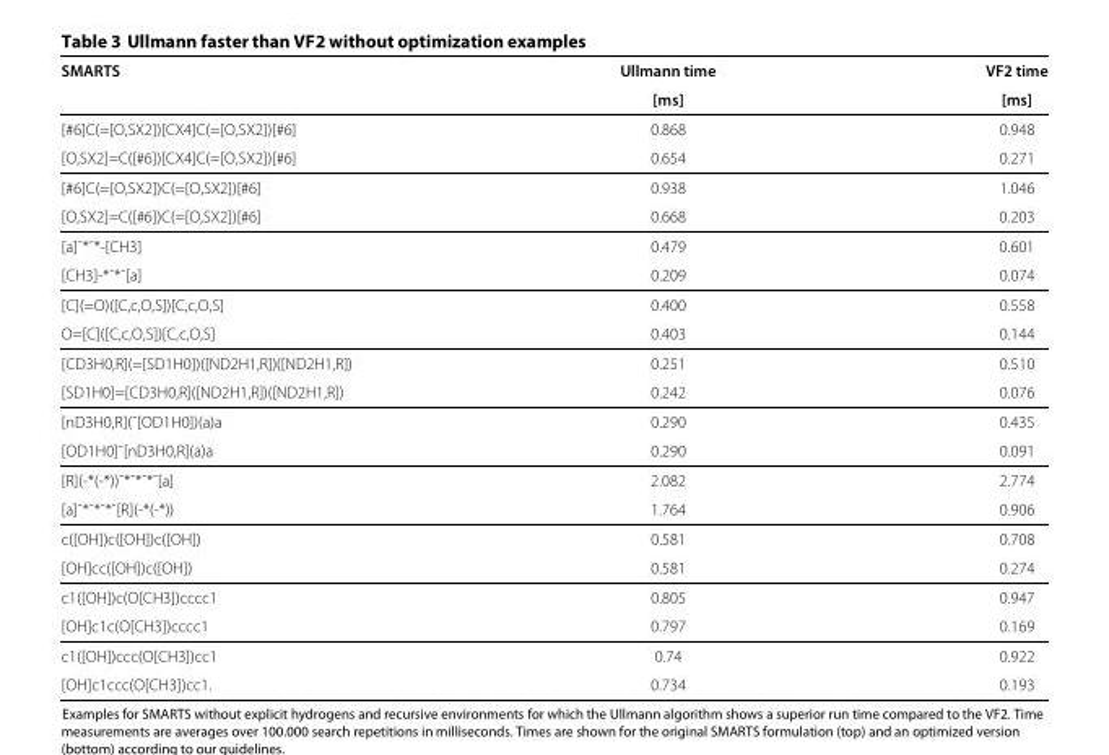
<table><thead><tr><td rowspan="2">SMARTS</td><td rowspan="2">Ullmann time [ms]</td><td rowspan="2">VF2 time [ms]</td></tr><tr></tr></thead><tbody><tr><td>[#6]C(=[O,SX2])[CX4]C(=[O,SX2])[#6]</td><td>0.868</td><td>0.948</td></tr><tr><td>[O,SX2]=C([#6])[CX4]C(=[O,SX2])[#6]</td><td>0.654</td><td>0.271</td></tr><tr><td>[#6]C(=[O,SX2])C(=[O,SX2])[#6]</td><td>0.938</td><td>1.046</td></tr><tr><td>[O,SX2]=C([#6])C(=[O,SX2])[#6]</td><td>0.668</td><td>0.203</td></tr><tr><td>[a]˜*˜*-[CH3]</td><td>0.479</td><td>0.601</td></tr><tr><td>[CH3]-*˜*˜[a]</td><td>0.209</td><td>0.074</td></tr><tr><td>[C](=O)([C,c,O,S])[C,c,O,S]</td><td>0.400</td><td>0.558</td></tr><tr><td>O=[C]([C,c,O,S])[C,c,O,S]</td><td>0.403</td><td>0.144</td></tr><tr><td>[CD3H0,R](=[SD1H0])([ND2H1,R])([ND2H1,R])</td><td>0.251</td><td>0.510</td></tr><tr><td>[SD1H0]=[CD3H0,R]([ND2H1,R])([ND2H1,R])</td><td>0.242</td><td>0.076</td></tr><tr><td>[nD3H0,R](˜[OD1H0])(a)a</td><td>0.290</td><td>0.435</td></tr><tr><td>[OD1H0]˜[nD3H0,R](a)a</td><td>0.290</td><td>0.091</td></tr><tr><td>[R](-*(-*))˜*˜*˜*˜[a]</td><td>2.082</td><td>2.774</td></tr><tr><td>[a]˜*˜*˜*˜[R](-*(-*))</td><td>1.764</td><td>0.906</td></tr><tr><td>c([OH])c([OH])c([OH])</td><td>0.581</td><td>0.708</td></tr><tr><td>[OH]cc([OH])c([OH])</td><td>0.581</td><td>0.274</td></tr><tr><td>c1([OH])c(O[CH3])cccc1</td><td>0.805</td><td>0.947</td></tr><tr><td>[OH]c1c(O[CH3])cccc1</td><td>0.797</td><td>0.169</td></tr><tr><td>c1([OH])ccc(O[CH3])cc1</td><td>0.74</td><td>0.922</td></tr><tr><td>[OH]c1ccc(O[CH3])cc1.</td><td>0.734</td><td>0.193</td></tr></tbody></table>